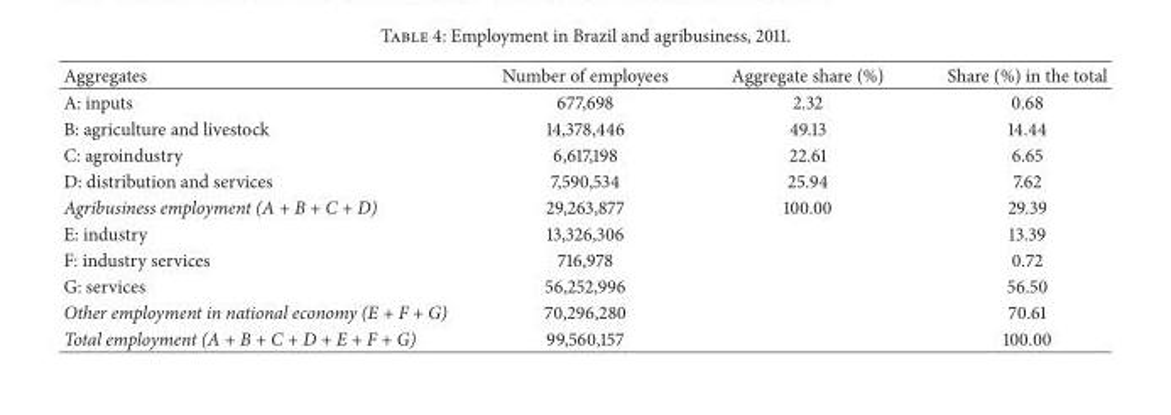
<table><thead><tr><td>Aggregates</td><td>Number of employees</td><td>Aggregate share (%)</td><td>Share (%) in the total</td></tr></thead><tbody><tr><td>A: inputs</td><td>677,698</td><td>2.32</td><td>0.68</td></tr><tr><td>B: agriculture and livestock</td><td>14,378,446</td><td>49.13</td><td>14.44</td></tr><tr><td>C: agroindustry</td><td>6,617,198</td><td>22.61</td><td>6.65</td></tr><tr><td>D: distribution and services</td><td>7,590,534</td><td>25.94</td><td>7.62</td></tr><tr><td>Agribusiness employment (A + B + C + D)</td><td>29,263,877</td><td>100.00</td><td>29.39</td></tr><tr><td>E: industry</td><td>13,326,306</td><td></td><td>13.39</td></tr><tr><td>F: industry services</td><td>716,978</td><td></td><td>0.72</td></tr><tr><td>G: services</td><td>56,252,996</td><td></td><td>56.50</td></tr><tr><td>Other employment in national economy (E + F + G)</td><td>70,296,280</td><td></td><td>70.61</td></tr><tr><td>Total employment (A + B + C + D + E + F + G)</td><td>99,560,157</td><td></td><td>100.00</td></tr></tbody></table>